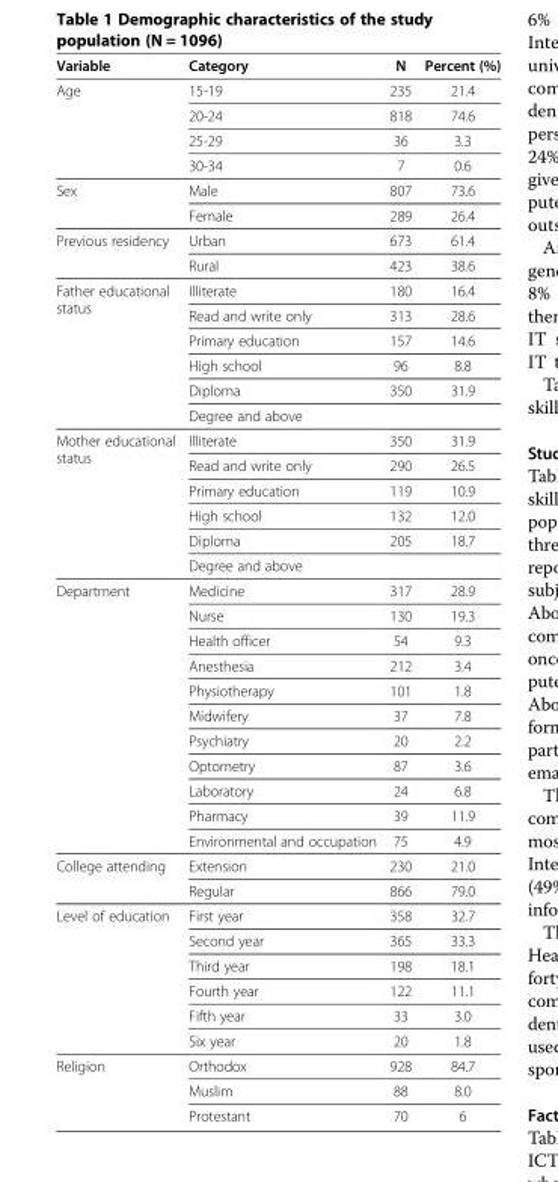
<table><thead><tr><td>Variable</td><td>Category</td><td>N</td><td>Percent (%)</td></tr></thead><tbody><tr><td rowspan="4">Age</td><td>15-19</td><td>235</td><td>21.4</td></tr><tr><td>20-24</td><td>818</td><td>74.6</td></tr><tr><td>25-29</td><td>36</td><td>3.3</td></tr><tr><td>30-34</td><td>7</td><td>0.6</td></tr><tr><td rowspan="2">Sex</td><td>Male</td><td>807</td><td>73.6</td></tr><tr><td>Female</td><td>289</td><td>26.4</td></tr><tr><td rowspan="2">Previous residency</td><td>Urban</td><td>673</td><td>61.4</td></tr><tr><td>Rural</td><td>423</td><td>38.6</td></tr><tr><td rowspan="6">Father educational status</td><td>Illiterate</td><td>180</td><td>16.4</td></tr><tr><td>Read and write only</td><td>313</td><td>28.6</td></tr><tr><td>Primary education</td><td>157</td><td>14.6</td></tr><tr><td>High school</td><td>96</td><td>8.8</td></tr><tr><td>Diploma</td><td>350</td><td>31.9</td></tr><tr><td>Degree and above</td><td></td><td></td></tr><tr><td rowspan="6">Mother educational status</td><td>Illiterate</td><td>350</td><td>31.9</td></tr><tr><td>Read and write only</td><td>290</td><td>26.5</td></tr><tr><td>Primary education</td><td>119</td><td>10.9</td></tr><tr><td>High school</td><td>132</td><td>12.0</td></tr><tr><td>Diploma</td><td>205</td><td>18.7</td></tr><tr><td>Degree and above</td><td></td><td></td></tr><tr><td rowspan="11">Department</td><td>Medicine</td><td>317</td><td>28.9</td></tr><tr><td>Nurse</td><td>130</td><td>19.3</td></tr><tr><td>Health officer</td><td>54</td><td>9.3</td></tr><tr><td>Anesthesia</td><td>212</td><td>3.4</td></tr><tr><td>Physiotherapy</td><td>101</td><td>1.8</td></tr><tr><td>Midwifery</td><td>37</td><td>7.8</td></tr><tr><td>Psychiatry</td><td>20</td><td>2.2</td></tr><tr><td>Optometry</td><td>87</td><td>3.6</td></tr><tr><td>Laboratory</td><td>24</td><td>6.8</td></tr><tr><td>Pharmacy</td><td>39</td><td>11.9</td></tr><tr><td>Environmental and occupation</td><td>75</td><td>4.9</td></tr><tr><td rowspan="2">College attending</td><td>Extension</td><td>230</td><td>21.0</td></tr><tr><td>Regular</td><td>866</td><td>79.0</td></tr><tr><td rowspan="6">Level of education</td><td>First year</td><td>358</td><td>32.7</td></tr><tr><td>Second year</td><td>365</td><td>33.3</td></tr><tr><td>Third year</td><td>198</td><td>18.1</td></tr><tr><td>Fourth year</td><td>122</td><td>11.1</td></tr><tr><td>Fifth year</td><td>33</td><td>3.0</td></tr><tr><td>Six year</td><td>20</td><td>1.8</td></tr><tr><td rowspan="3">Religion</td><td>Orthodox</td><td>928</td><td>84.7</td></tr><tr><td>Muslim</td><td>88</td><td>8.0</td></tr><tr><td>Protestant</td><td>70</td><td>6</td></tr></tbody></table>